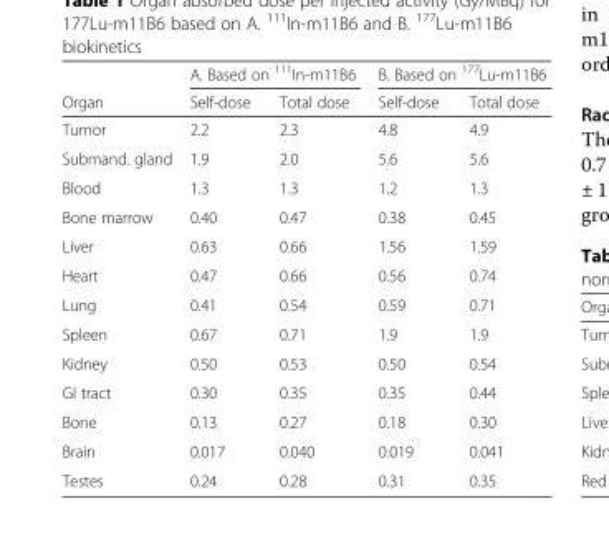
<table><thead><tr><td rowspan="2">Organ</td><td colspan="2">A. Based on <sup>111</sup>In-m11B6</td><td colspan="2">B. Based on <sup>177</sup>Lu-m11B6</td></tr><tr><td>Self-dose</td><td>Total dose</td><td>Self-dose</td><td>Total dose</td></tr></thead><tbody><tr><td>Tumor</td><td>2.2</td><td>2.3</td><td>4.8</td><td>4.9</td></tr><tr><td>Submand. gland</td><td>1.9</td><td>2.0</td><td>5.6</td><td>5.6</td></tr><tr><td>Blood</td><td>1.3</td><td>1.3</td><td>1.2</td><td>1.3</td></tr><tr><td>Bone marrow</td><td>0.40</td><td>0.47</td><td>0.38</td><td>0.45</td></tr><tr><td>Liver</td><td>0.63</td><td>0.66</td><td>1.56</td><td>1.59</td></tr><tr><td>Heart</td><td>0.47</td><td>0.66</td><td>0.56</td><td>0.74</td></tr><tr><td>Lung</td><td>0.41</td><td>0.54</td><td>0.59</td><td>0.71</td></tr><tr><td>Spleen</td><td>0.67</td><td>0.71</td><td>1.9</td><td>1.9</td></tr><tr><td>Kidney</td><td>0.50</td><td>0.53</td><td>0.50</td><td>0.54</td></tr><tr><td>GI tract</td><td>0.30</td><td>0.35</td><td>0.35</td><td>0.44</td></tr><tr><td>Bone</td><td>0.13</td><td>0.27</td><td>0.18</td><td>0.30</td></tr><tr><td>Brain</td><td>0.017</td><td>0.040</td><td>0.019</td><td>0.041</td></tr><tr><td>Testes</td><td>0.24</td><td>0.28</td><td>0.31</td><td>0.35</td></tr></tbody></table>